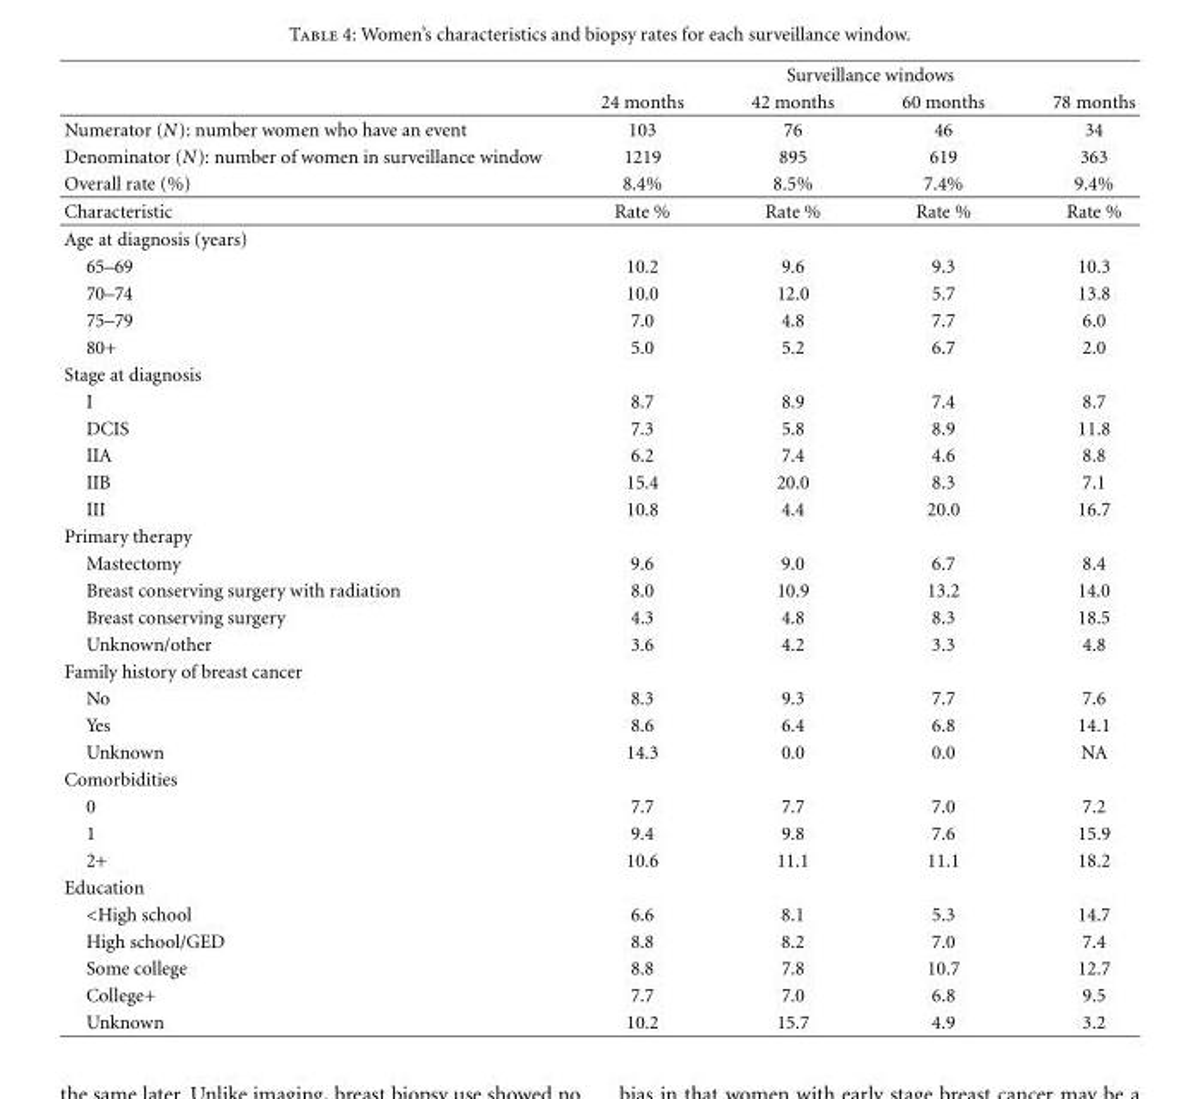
<table><thead><tr><td rowspan="2"></td><td colspan="4">Surveillance windows</td></tr><tr><td>24 months</td><td>42 months</td><td>60 months</td><td>78 months</td></tr></thead><tbody><tr><td>Numerator (N): number women who have an event</td><td>103</td><td>76</td><td>46</td><td>34</td></tr><tr><td>Denominator (N): number of women in surveillance window</td><td>1219</td><td>895</td><td>619</td><td>363</td></tr><tr><td>Overall rate (%)</td><td>8.4%</td><td>8.5%</td><td>7.4%</td><td>9.4%</td></tr><tr><td>Characteristic</td><td>Rate %</td><td>Rate %</td><td>Rate %</td><td>Rate %</td></tr><tr><td colspan="5">Age at diagnosis (years)</td></tr><tr><td>65–69</td><td>10.2</td><td>9.6</td><td>9.3</td><td>10.3</td></tr><tr><td>70–74</td><td>10.0</td><td>12.0</td><td>5.7</td><td>13.8</td></tr><tr><td>75–79</td><td>7.0</td><td>4.8</td><td>7.7</td><td>6.0</td></tr><tr><td>80+</td><td>5.0</td><td>5.2</td><td>6.7</td><td>2.0</td></tr><tr><td colspan="5">Stage at diagnosis</td></tr><tr><td>I</td><td>8.7</td><td>8.9</td><td>7.4</td><td>8.7</td></tr><tr><td>DCIS</td><td>7.3</td><td>5.8</td><td>8.9</td><td>11.8</td></tr><tr><td>IIA</td><td>6.2</td><td>7.4</td><td>4.6</td><td>8.8</td></tr><tr><td>IIB</td><td>15.4</td><td>20.0</td><td>8.3</td><td>7.1</td></tr><tr><td>III</td><td>10.8</td><td>4.4</td><td>20.0</td><td>16.7</td></tr><tr><td colspan="5">Primary therapy</td></tr><tr><td>Mastectomy</td><td>9.6</td><td>9.0</td><td>6.7</td><td>8.4</td></tr><tr><td>Breast conserving surgery with radiation</td><td>8.0</td><td>10.9</td><td>13.2</td><td>14.0</td></tr><tr><td>Breast conserving surgery</td><td>4.3</td><td>4.8</td><td>8.3</td><td>18.5</td></tr><tr><td>Unknown/other</td><td>3.6</td><td>4.2</td><td>3.3</td><td>4.8</td></tr><tr><td colspan="5">Family history of breast cancer</td></tr><tr><td>No</td><td>8.3</td><td>9.3</td><td>7.7</td><td>7.6</td></tr><tr><td>Yes</td><td>8.6</td><td>6.4</td><td>6.8</td><td>14.1</td></tr><tr><td>Unknown</td><td>14.3</td><td>0.0</td><td>0.0</td><td>NA</td></tr><tr><td colspan="5">Comorbidities</td></tr><tr><td>0</td><td>7.7</td><td>7.7</td><td>7.0</td><td>7.2</td></tr><tr><td>1</td><td>9.4</td><td>9.8</td><td>7.6</td><td>15.9</td></tr><tr><td>2+</td><td>10.6</td><td>11.1</td><td>11.1</td><td>18.2</td></tr><tr><td colspan="5">Education</td></tr><tr><td>&lt;High school</td><td>6.6</td><td>8.1</td><td>5.3</td><td>14.7</td></tr><tr><td>High school/GED</td><td>8.8</td><td>8.2</td><td>7.0</td><td>7.4</td></tr><tr><td>Some college</td><td>8.8</td><td>7.8</td><td>10.7</td><td>12.7</td></tr><tr><td>College+</td><td>7.7</td><td>7.0</td><td>6.8</td><td>9.5</td></tr><tr><td>Unknown</td><td>10.2</td><td>15.7</td><td>4.9</td><td>3.2</td></tr></tbody></table>